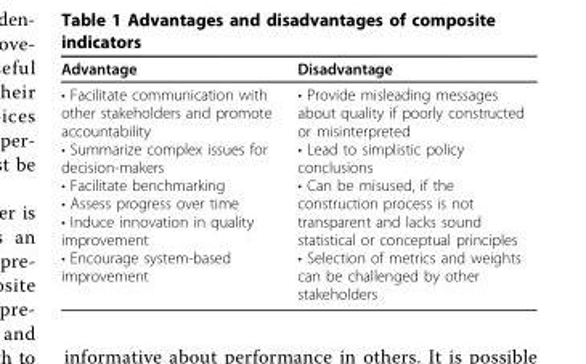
<table><thead><tr><td>Advantage</td><td>Disadvantage</td></tr></thead><tbody><tr><td>• Facilitate communication with other stakeholders and promote accountability • Summarize complex issues for decision-makers • Facilitate benchmarking • Assess progress over time • Induce innovation in quality improvement • Encourage system-based improvement</td><td>• Provide misleading messages about quality if poorly constructed or misinterpreted • Lead to simplistic policy conclusions • Can be misused, if the construction process is not transparent and lacks sound statistical or conceptual principles • Selection of metrics and weights can be challenged by other stakeholders</td></tr></tbody></table>